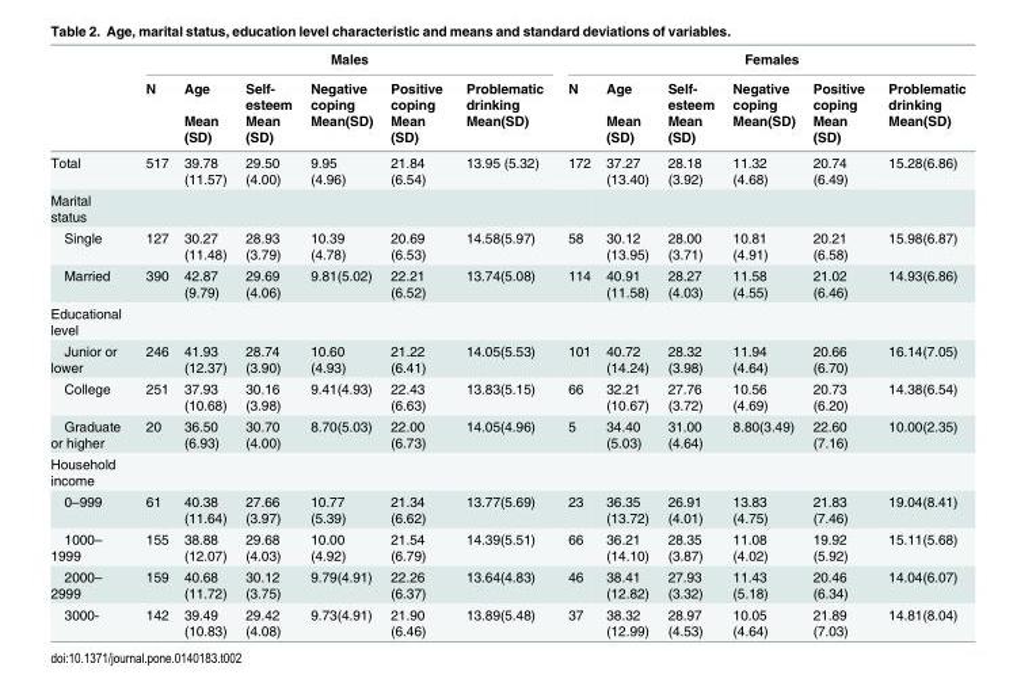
<table><thead><tr><td rowspan="3"></td><td colspan="6">Males</td><td colspan="6">Females</td></tr><tr><td rowspan="2">N</td><td rowspan="2">Age Mean (SD)</td><td rowspan="2">Self- esteem Mean (SD)</td><td rowspan="2">Negative coping Mean(SD)</td><td rowspan="2">Positive coping Mean (SD)</td><td rowspan="2">Problematic drinking Mean(SD)</td><td rowspan="2">N</td><td rowspan="2">Age Mean (SD)</td><td rowspan="2">Self- esteem Mean (SD)</td><td rowspan="2">Negative coping Mean(SD)</td><td rowspan="2">Positive coping Mean (SD)</td><td rowspan="2">Problematic drinking Mean(SD)</td></tr><tr></tr></thead><tbody><tr><td>Total</td><td>517</td><td>39.78 (11.57)</td><td>29.50 (4.00)</td><td>9.95 (4.96)</td><td>21.84 (6.54)</td><td>13.95 (5.32)</td><td>172</td><td>37.27 (13.40)</td><td>28.18 (3.92)</td><td>11.32 (4.68)</td><td>20.74 (6.49)</td><td>15.28(6.86)</td></tr><tr><td colspan="13">Marital status</td></tr><tr><td>Single</td><td>127</td><td>30.27 (11.48)</td><td>28.93 (3.79)</td><td>10.39 (4.78)</td><td>20.69 (6.53)</td><td>14.58(5.97)</td><td>58</td><td>30.12 (13.95)</td><td>28.00 (3.71)</td><td>10.81 (4.91)</td><td>20.21 (6.58)</td><td>15.98(6.87)</td></tr><tr><td>Married</td><td>390</td><td>42.87 (9.79)</td><td>29.69 (4.06)</td><td>9.81(5.02)</td><td>22.21 (6.52)</td><td>13.74(5.08)</td><td>114</td><td>40.91 (11.58)</td><td>28.27 (4.03)</td><td>11.58 (4.55)</td><td>21.02 (6.46)</td><td>14.93(6.86)</td></tr><tr><td colspan="13">Educational level</td></tr><tr><td>Junior or lower</td><td>246</td><td>41.93 (12.37)</td><td>28.74 (3.90)</td><td>10.60 (4.93)</td><td>21.22 (6.41)</td><td>14.05(5.53)</td><td>101</td><td>40.72 (14.24)</td><td>28.32 (3.98)</td><td>11.94 (4.64)</td><td>20.66 (6.70)</td><td>16.14(7.05)</td></tr><tr><td>College</td><td>251</td><td>37.93 (10.68)</td><td>30.16 (3.98)</td><td>9.41(4.93)</td><td>22.43 (6.63)</td><td>13.83(5.15)</td><td>66</td><td>32.21 (10.67)</td><td>27.76 (3.72)</td><td>10.56 (4.69)</td><td>20.73 (6.20)</td><td>14.38(6.54)</td></tr><tr><td>Graduate or higher</td><td>20</td><td>36.50 (6.93)</td><td>30.70 (4.00)</td><td>8.70(5.03)</td><td>22.00 (6.73)</td><td>14.05(4.96)</td><td>5</td><td>34.40 (5.03)</td><td>31.00 (4.64)</td><td>8.80(3.49)</td><td>22.60 (7.16)</td><td>10.00(2.35)</td></tr><tr><td colspan="13">Household income</td></tr><tr><td>0–999</td><td>61</td><td>40.38 (11.64)</td><td>27.66 (3.97)</td><td>10.77 (5.39)</td><td>21.34 (6.62)</td><td>13.77(5.69)</td><td>23</td><td>36.35 (13.72)</td><td>26.91 (4.01)</td><td>13.83 (4.75)</td><td>21.83 (7.46)</td><td>19.04(8.41)</td></tr><tr><td>1000– 1999</td><td>155</td><td>38.88 (12.07)</td><td>29.68 (4.03)</td><td>10.00 (4.92)</td><td>21.54 (6.79)</td><td>14.39(5.51)</td><td>66</td><td>36.21 (14.10)</td><td>28.35 (3.87)</td><td>11.08 (4.02)</td><td>19.92 (5.92)</td><td>15.11(5.68)</td></tr><tr><td>2000– 2999</td><td>159</td><td>40.68 (11.72)</td><td>30.12 (3.75)</td><td>9.79(4.91)</td><td>22.26 (6.37)</td><td>13.64(4.83)</td><td>46</td><td>38.41 (12.82)</td><td>27.93 (3.32)</td><td>11.43 (5.18)</td><td>20.46 (6.34)</td><td>14.04(6.07)</td></tr><tr><td>3000-</td><td>142</td><td>39.49 (10.83)</td><td>29.42 (4.08)</td><td>9.73(4.91)</td><td>21.90 (6.46)</td><td>13.89(5.48)</td><td>37</td><td>38.32 (12.99)</td><td>28.97 (4.53)</td><td>10.05 (4.64)</td><td>21.89 (7.03)</td><td>14.81(8.04)</td></tr></tbody></table>